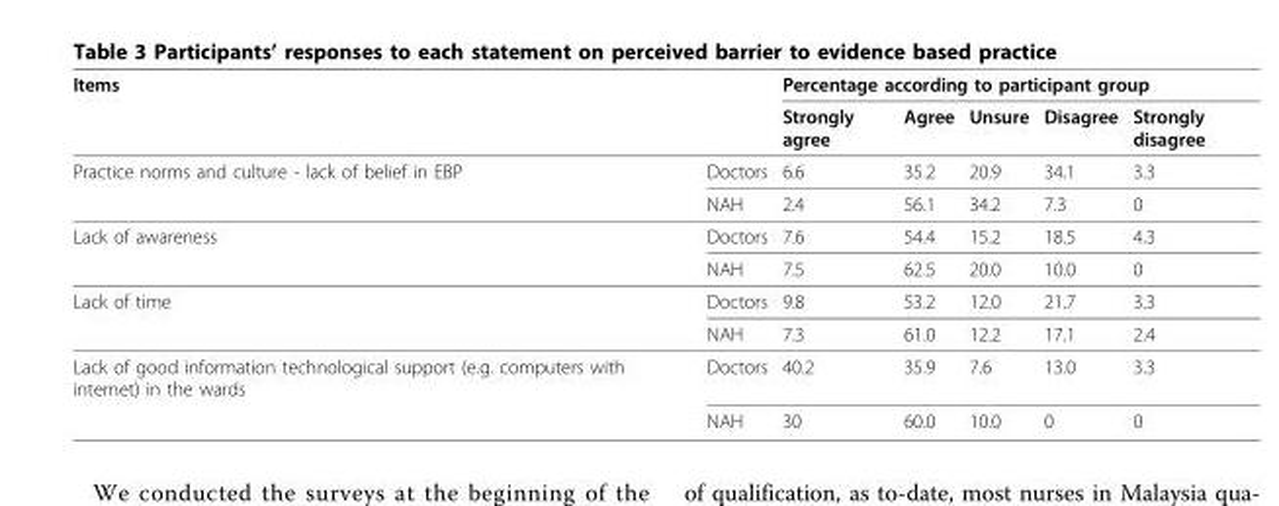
<table><thead><tr><td rowspan="2">Items</td><td rowspan="2"></td><td colspan="5">Percentage according to participant group</td></tr><tr><td>Strongly agree</td><td>Agree</td><td>Unsure</td><td>Disagree</td><td>Strongly disagree</td></tr></thead><tbody><tr><td rowspan="2">Practice norms and culture - lack of belief in EBP</td><td>Doctors</td><td>6.6</td><td>35.2</td><td>20.9</td><td>34.1</td><td>3.3</td></tr><tr><td>NAH</td><td>2.4</td><td>56.1</td><td>34.2</td><td>7.3</td><td>0</td></tr><tr><td rowspan="2">Lack of awareness</td><td>Doctors</td><td>7.6</td><td>54.4</td><td>15.2</td><td>18.5</td><td>4.3</td></tr><tr><td>NAH</td><td>7.5</td><td>62.5</td><td>20.0</td><td>10.0</td><td>0</td></tr><tr><td rowspan="2">Lack of time</td><td>Doctors</td><td>9.8</td><td>53.2</td><td>12.0</td><td>21.7</td><td>3.3</td></tr><tr><td>NAH</td><td>7.3</td><td>61.0</td><td>12.2</td><td>17.1</td><td>2.4</td></tr><tr><td rowspan="2">Lack of good information technological support (e.g. computers with internet) in the wards</td><td>Doctors</td><td>40.2</td><td>35.9</td><td>7.6</td><td>13.0</td><td>3.3</td></tr><tr><td>NAH</td><td>30</td><td>60.0</td><td>10.0</td><td>0</td><td>0</td></tr></tbody></table>